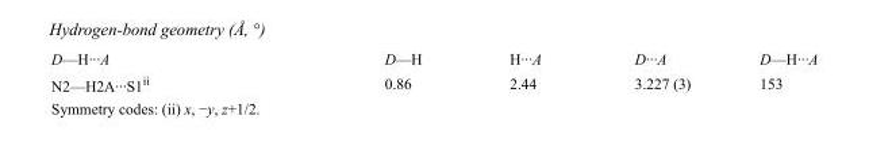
<table><tbody><tr><td>D—H···A</td><td>D—H</td><td>H···A</td><td>D···A</td><td>D—H···A</td></tr><tr><td>N2—H2A···S1<sup>ii</sup></td><td>0.86</td><td>2.44</td><td>3.227 (3)</td><td>153</td></tr></tbody></table>